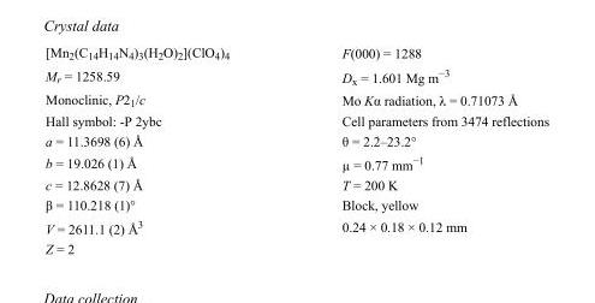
<table><tbody><tr><td>[Mn<sub>2</sub>(C<sub>14</sub>H<sub>14</sub>N<sub>4</sub>)<sub>3</sub>(H<sub>2</sub>O)<sub>2</sub>](ClO<sub>4</sub>)<sub>4</sub></td><td>F(000) = 1288</td></tr><tr><td>M<sub>r</sub> = 1258.59</td><td>D<sub>x</sub> = 1.601 Mg m<sup>−3</sup></td></tr><tr><td>Monoclinic, P2<sub>1</sub>/c</td><td>Mo Kα radiation, λ = 0.71073 Å</td></tr><tr><td>Hall symbol: -P 2ybc</td><td>Cell parameters from 3474 reflections</td></tr><tr><td>a = 11.3698 (6) Å</td><td>θ = 2.2–23.2°</td></tr><tr><td>b = 19.026 (1) Å</td><td>µ = 0.77 mm<sup>−1</sup></td></tr><tr><td>c = 12.8628 (7) Å</td><td>T = 200 K</td></tr><tr><td>β = 110.218 (1)°</td><td>Block, yellow</td></tr><tr><td>V = 2611.1 (2) Å<sup>3</sup></td><td>0.24 × 0.18 × 0.12 mm</td></tr><tr><td>Z = 2</td><td></td></tr></tbody></table>